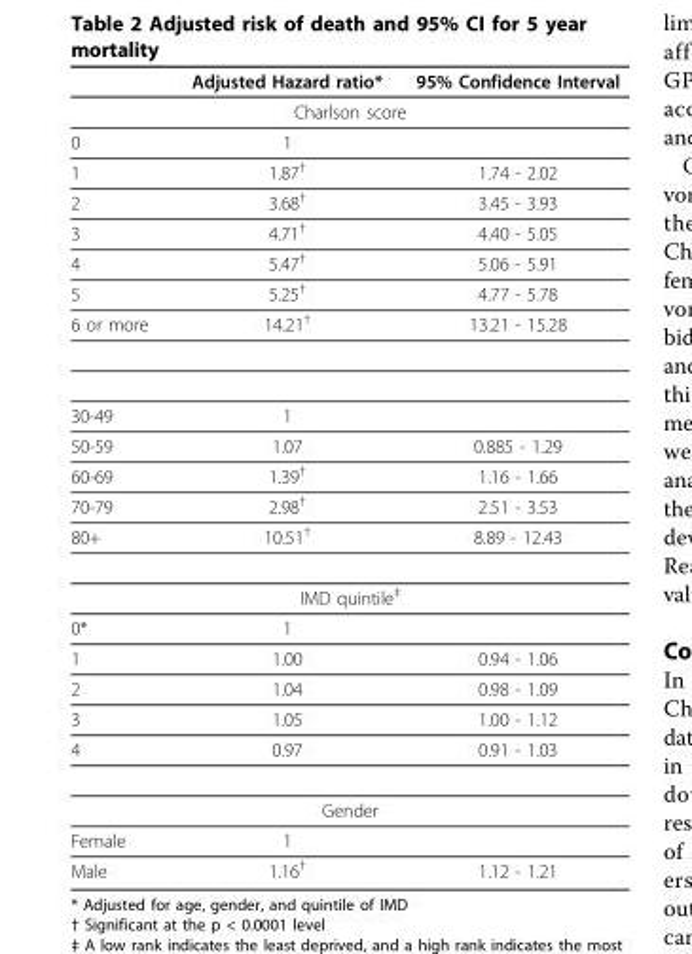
<table><thead><tr><td></td><td>Adjusted Hazard ratio*</td><td>95% Confidence Interval</td></tr></thead><tbody><tr><td colspan="3">Charlson score</td></tr><tr><td>0</td><td>1</td><td></td></tr><tr><td>1</td><td>1.87†</td><td>1.74 - 2.02</td></tr><tr><td>2</td><td>3.68†</td><td>3.45 - 3.93</td></tr><tr><td>3</td><td>4.71†</td><td>4.40 - 5.05</td></tr><tr><td>4</td><td>5.47†</td><td>5.06 - 5.91</td></tr><tr><td>5</td><td>5.25†</td><td>4.77 - 5.78</td></tr><tr><td>6 or more</td><td>14.21†</td><td>13.21 - 15.28</td></tr><tr><td>30-49</td><td>1</td><td></td></tr><tr><td>50-59</td><td>1.07</td><td>0.885 - 1.29</td></tr><tr><td>60-69</td><td>1.39†</td><td>1.16 - 1.66</td></tr><tr><td>70-79</td><td>2.98†</td><td>2.51 - 3.53</td></tr><tr><td>80+</td><td>10.51†</td><td>8.89 - 12.43</td></tr><tr><td colspan="3">IMD quintile‡</td></tr><tr><td>0*</td><td>1</td><td></td></tr><tr><td>1</td><td>1.00</td><td>0.94 - 1.06</td></tr><tr><td>2</td><td>1.04</td><td>0.98 - 1.09</td></tr><tr><td>3</td><td>1.05</td><td>1.00 - 1.12</td></tr><tr><td>4</td><td>0.97</td><td>0.91 - 1.03</td></tr><tr><td colspan="3">Gender</td></tr><tr><td>Female</td><td>1</td><td></td></tr><tr><td>Male</td><td>1.16†</td><td>1.12 - 1.21</td></tr></tbody></table>